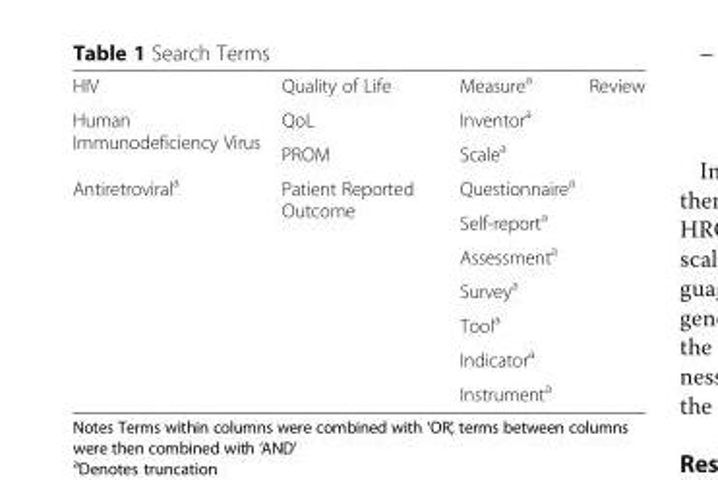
<table><tbody><tr><td>HIV</td><td>Quality of Life</td><td>Measure<sup>a</sup></td><td rowspan="10">Review</td></tr><tr><td rowspan="2">Human Immunodeficiency Virus</td><td>QoL</td><td>Inventor<sup>a</sup></td></tr><tr><td>PROM</td><td>Scale<sup>a</sup></td></tr><tr><td rowspan="7">Antiretroviral<sup>a</sup></td><td rowspan="7">Patient Reported Outcome</td><td>Questionnaire<sup>a</sup></td></tr><tr><td>Self-report<sup>a</sup></td></tr><tr><td>Assessment<sup>a</sup></td></tr><tr><td>Survey<sup>a</sup></td></tr><tr><td>Tool<sup>a</sup></td></tr><tr><td>Indicator<sup>a</sup></td></tr><tr><td>Instrument<sup>a</sup></td></tr></tbody></table>